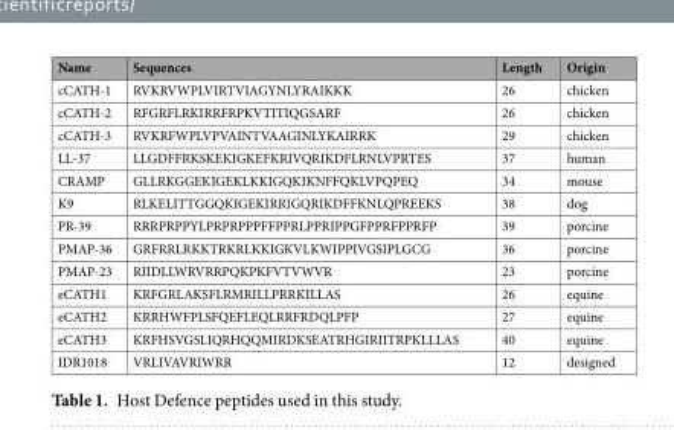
<table><thead><tr><td>Name</td><td>Sequences</td><td>Length</td><td>Origin</td></tr></thead><tbody><tr><td>cCATH-1</td><td>RVKRVWPLVIRTVIAGYNLYRAIKKK</td><td>26</td><td>chicken</td></tr><tr><td>cCATH-2</td><td>RFGRFLRKIRRFRPKVTITIQGSARF</td><td>26</td><td>chicken</td></tr><tr><td>cCATH-3</td><td>RVKRFWPLVPVAINTVAAGINLYKAIRRK</td><td>29</td><td>chicken</td></tr><tr><td>LL-37</td><td>LLGDFFRKSKEKIGKEFKRIVQRIKDFLRNLVPRTES</td><td>37</td><td>human</td></tr><tr><td>CRAMP</td><td>GLLRKGGEKIGEKLKKIGQKIKNFFQKLVPQPEQ</td><td>34</td><td>mouse</td></tr><tr><td>K9</td><td>RLKELITTGGQKIGEKIRRIGQRIKDFFKNLQPREEKS</td><td>38</td><td>dog</td></tr><tr><td>PR-39</td><td>RRRPRPPYLPRPRPPPFFPPRLPPRIPPGFPPRFPPRFP</td><td>39</td><td>porcine</td></tr><tr><td>PMAP-36</td><td>GRFRRLRKKTRKRLKKIGKVLKWIPPIVGSIPLGCG</td><td>36</td><td>porcine</td></tr><tr><td>PMAP-23</td><td>RIIDLLWRVRRPQKPKFVTVWVR</td><td>23</td><td>porcine</td></tr><tr><td>eCATH1</td><td>KRFGRLAKSFLRMRILLPRRKILLAS</td><td>26</td><td>equine</td></tr><tr><td>eCATH2</td><td>KRRHWFPLSFQEFLEQLRRFRDQLPFP</td><td>27</td><td>equine</td></tr><tr><td>eCATH3</td><td>KRFHSVGSLIQRHQQMIRDKSEATRHGIRIITRPKLLLAS</td><td>40</td><td>equine</td></tr><tr><td>IDR1018</td><td>VRLIVAVRIWRR</td><td>12</td><td>designed</td></tr></tbody></table>